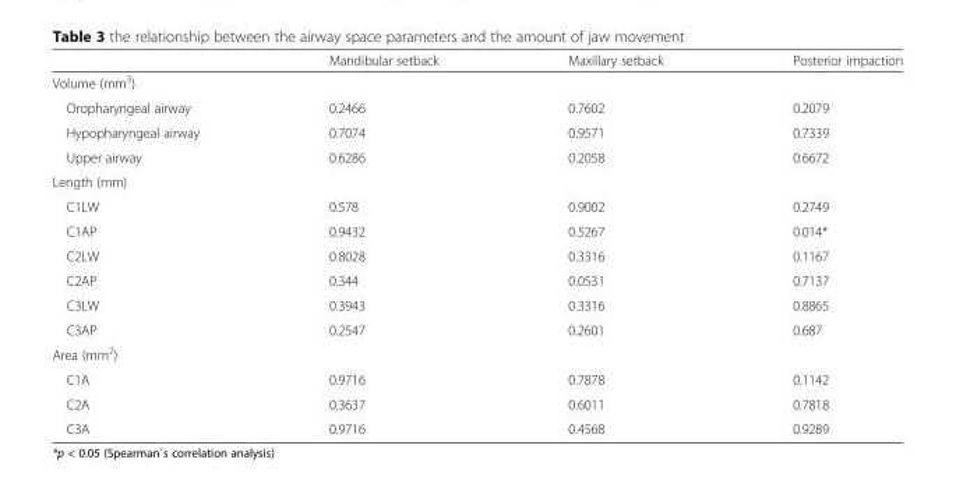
<table><thead><tr><td></td><td>Mandibular setback</td><td>Maxillary setback</td><td>Posterior impaction</td></tr></thead><tbody><tr><td colspan="4">Volume (mm<sup>3</sup>)</td></tr><tr><td>Oropharyngeal airway</td><td>0.2466</td><td>0.7602</td><td>0.2079</td></tr><tr><td>Hypopharyngeal airway</td><td>0.7074</td><td>0.9571</td><td>0.7339</td></tr><tr><td>Upper airway</td><td>0.6286</td><td>0.2058</td><td>0.6672</td></tr><tr><td colspan="4">Length (mm)</td></tr><tr><td>C1LW</td><td>0.578</td><td>0.9002</td><td>0.2749</td></tr><tr><td>C1AP</td><td>0.9432</td><td>0.5267</td><td>0.014*</td></tr><tr><td>C2LW</td><td>0.8028</td><td>0.3316</td><td>0.1167</td></tr><tr><td>C2AP</td><td>0.344</td><td>0.0531</td><td>0.7137</td></tr><tr><td>C3LW</td><td>0.3943</td><td>0.3316</td><td>0.8865</td></tr><tr><td>C3AP</td><td>0.2547</td><td>0.2601</td><td>0.687</td></tr><tr><td colspan="4">Area (mm<sup>2</sup>)</td></tr><tr><td>C1A</td><td>0.9716</td><td>0.7878</td><td>0.1142</td></tr><tr><td>C2A</td><td>0.3637</td><td>0.6011</td><td>0.7818</td></tr><tr><td>C3A</td><td>0.9716</td><td>0.4568</td><td>0.9289</td></tr></tbody></table>